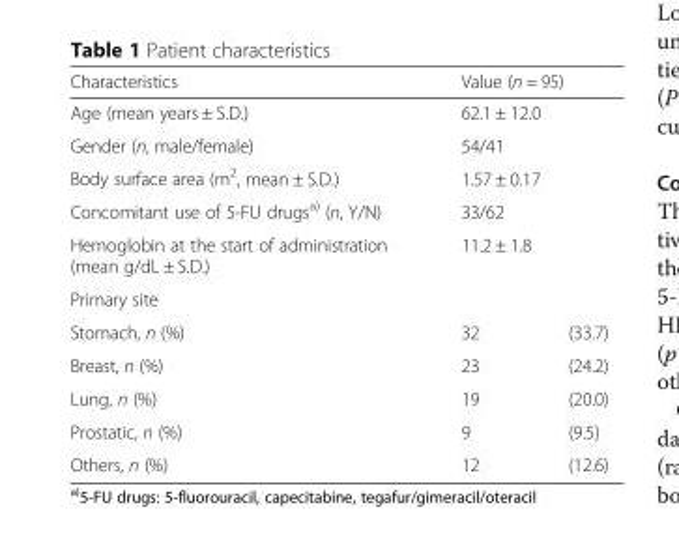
<table><thead><tr><td>Characteristics</td><td colspan="2">Value (n = 95)</td></tr></thead><tbody><tr><td>Age (mean years ± S.D.)</td><td colspan="2">62.1 ± 12.0</td></tr><tr><td>Gender (n, male/female)</td><td colspan="2">54/41</td></tr><tr><td>Body surface area (m<sup>2</sup>, mean ± S.D.)</td><td colspan="2">1.57 ± 0.17</td></tr><tr><td>Concomitant use of 5-FU drugs<sup>a)</sup> (n, Y/N)</td><td colspan="2">33/62</td></tr><tr><td>Hemoglobin at the start of administration (mean g/dL ± S.D.)</td><td colspan="2">11.2 ± 1.8</td></tr><tr><td colspan="3">Primary site</td></tr><tr><td>Stomach, n (%)</td><td>32</td><td>(33.7)</td></tr><tr><td>Breast, n (%)</td><td>23</td><td>(24.2)</td></tr><tr><td>Lung, n (%)</td><td>19</td><td>(20.0)</td></tr><tr><td>Prostatic, n (%)</td><td>9</td><td>(9.5)</td></tr><tr><td>Others, n (%)</td><td>12</td><td>(12.6)</td></tr></tbody></table>